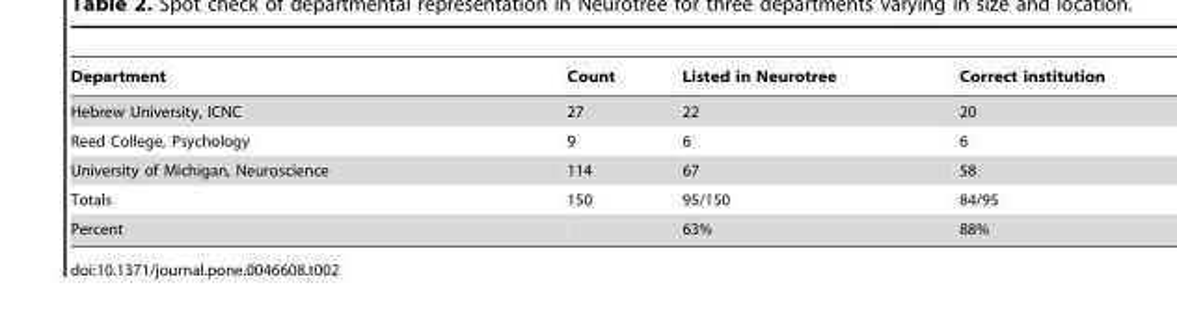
<table><thead><tr><td>Department</td><td>Count</td><td>Listed in Neurotree</td><td>Correct institution</td></tr></thead><tbody><tr><td>Hebrew University, ICNC</td><td>27</td><td>22</td><td>20</td></tr><tr><td>Reed College, Psychology</td><td>9</td><td>6</td><td>6</td></tr><tr><td>University of Michigan, Neuroscience</td><td>114</td><td>67</td><td>58</td></tr><tr><td>Totals</td><td>150</td><td>95/150</td><td>84/95</td></tr><tr><td>Percent</td><td></td><td>63%</td><td>88%</td></tr></tbody></table>